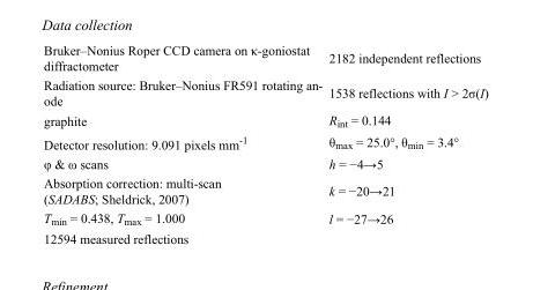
<table><tbody><tr><td>Bruker–Nonius Roper CCD camera on κ-goniostat diffractometer</td><td>2182 independent reflections</td></tr><tr><td>Radiation source: Bruker–Nonius FR591 rotating an- ode</td><td>1538 reflections with I &gt; 2σ(I)</td></tr><tr><td>graphite</td><td>R<sub>int</sub> = 0.144</td></tr><tr><td>Detector resolution: 9.091 pixels mm<sup>-1</sup></td><td>θ<sub>max</sub> = 25.0°, θ<sub>min</sub> = 3.4°</td></tr><tr><td>φ &amp; ω scans</td><td>h = −4→5</td></tr><tr><td>Absorption correction: multi-scan (SADABS; Sheldrick, 2007)</td><td>k = −20→21</td></tr><tr><td>T<sub>min</sub> = 0.438, T<sub>max</sub> = 1.000</td><td>l = −27→26</td></tr><tr><td>12594 measured reflections</td><td></td></tr></tbody></table>